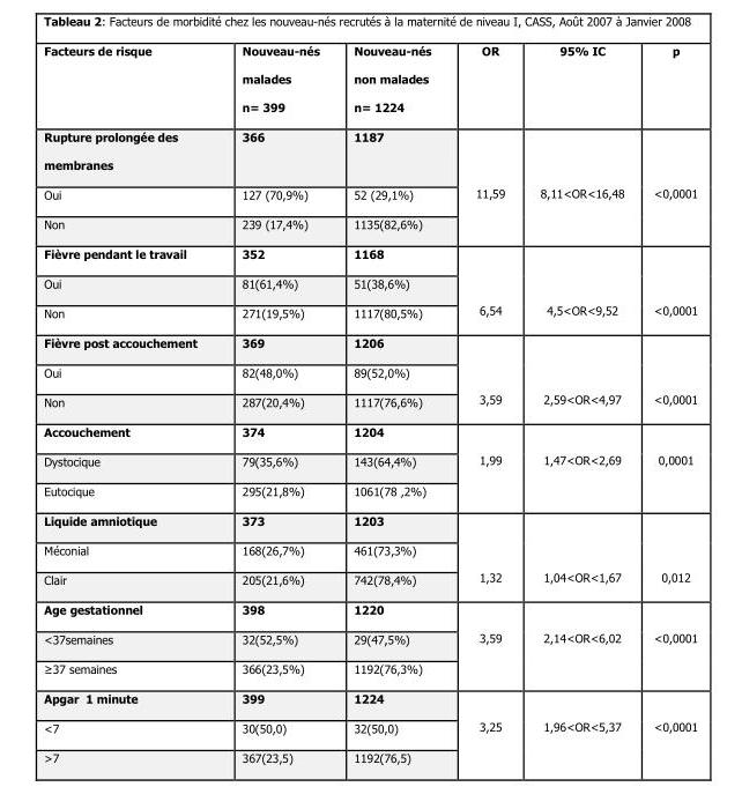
<table><thead><tr><td>Facteurs de risque</td><td>Nouveau-nés malades n= 399</td><td>Nouveau-nés non malades n= 1224</td><td>OR</td><td>95% IC</td><td>p</td></tr></thead><tbody><tr><td>Rupture prolongée des membranes</td><td>366</td><td>1187</td><td rowspan="3">11,59</td><td rowspan="3">8,11&lt;OR&lt;16,48</td><td rowspan="3">&lt;0,0001</td></tr><tr><td>Oui</td><td>127 (70,9%)</td><td>52 (29,1%)</td></tr><tr><td>Non</td><td>239 (17,4%)</td><td>1135(82,6%)</td></tr><tr><td>Fièvre pendant le travail</td><td>352</td><td>1168</td><td rowspan="3">6,54</td><td rowspan="3">4,5&lt;OR&lt;9,52</td><td rowspan="3">&lt;0,0001</td></tr><tr><td>Oui</td><td>81(61,4%)</td><td>51(38,6%)</td></tr><tr><td>Non</td><td>271(19,5%)</td><td>1117(80,5%)</td></tr><tr><td>Fièvre post accouchement</td><td>369</td><td>1206</td><td rowspan="3">3,59</td><td rowspan="3">2,59&lt;OR&lt;4,97</td><td rowspan="3">&lt;0,0001</td></tr><tr><td>Oui</td><td>82(48,0%)</td><td>89(52,0%)</td></tr><tr><td>Non</td><td>287(20,4%)</td><td>1117(76,6%)</td></tr><tr><td>Accouchement</td><td>374</td><td>1204</td><td rowspan="3">1,99</td><td rowspan="3">1,47&lt;OR&lt;2,69</td><td rowspan="3">0,0001</td></tr><tr><td>Dystocique</td><td>79(35,6%)</td><td>143(64,4%)</td></tr><tr><td>Eutocique</td><td>295(21,8%)</td><td>1061(78 ,2%)</td></tr><tr><td>Liquide amniotique</td><td>373</td><td>1203</td><td rowspan="3">1,32</td><td rowspan="3">1,04&lt;OR&lt;1,67</td><td rowspan="3">0,012</td></tr><tr><td>Méconial</td><td>168(26,7%)</td><td>461(73,3%)</td></tr><tr><td>Clair</td><td>205(21,6%)</td><td>742(78,4%)</td></tr><tr><td>Age gestationnel</td><td>398</td><td>1220</td><td rowspan="3">3,59</td><td rowspan="3">2,14&lt;OR&lt;6,02</td><td rowspan="3">&lt;0,0001</td></tr><tr><td>&lt;37semaines</td><td>32(52,5%)</td><td>29(47,5%)</td></tr><tr><td>≥37 semaines</td><td>366(23,5%)</td><td>1192(76,3%)</td></tr><tr><td>Apgar 1 minute</td><td>399</td><td>1224</td><td rowspan="3">3,25</td><td rowspan="3">1,96&lt;OR&lt;5,37</td><td rowspan="3">&lt;0,0001</td></tr><tr><td>&lt;7</td><td>30(50,0)</td><td>32(50,0)</td></tr><tr><td>&gt;7</td><td>367(23,5)</td><td>1192(76,5)</td></tr></tbody></table>